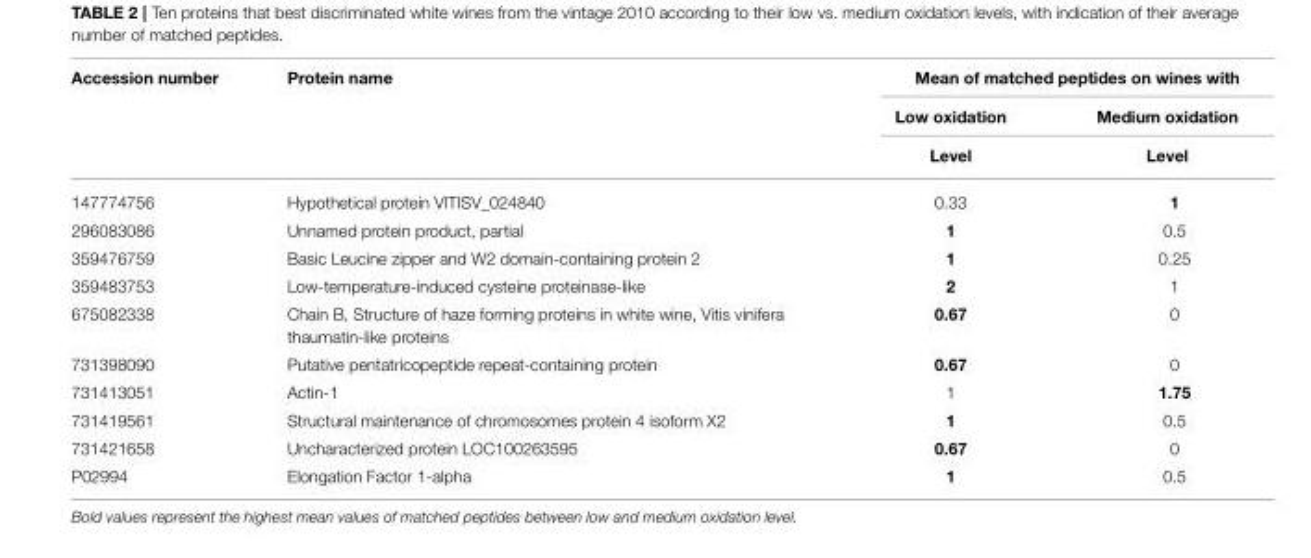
<table><thead><tr><td rowspan="3">Accession number</td><td rowspan="3">Protein name</td><td colspan="2">Mean of matched peptides on wines with</td></tr><tr><td rowspan="2">Low oxidation Level</td><td rowspan="2">Medium oxidation Level</td></tr><tr></tr></thead><tbody><tr><td>147774756</td><td>Hypothetical protein VITISV_024840</td><td>0.33</td><td>1</td></tr><tr><td>296083086</td><td>Unnamed protein product, partial</td><td>1</td><td>0.5</td></tr><tr><td>359476759</td><td>Basic Leucine zipper and W2 domain-containing protein 2</td><td>1</td><td>0.25</td></tr><tr><td>359483753</td><td>Low-temperature-induced cysteine proteinase-like</td><td>2</td><td>1</td></tr><tr><td>675082338</td><td>Chain B, Structure of haze forming proteins in white wine, Vitis vinifera thaumatin-like proteins</td><td>0.67</td><td>0</td></tr><tr><td>731398090</td><td>Putative pentatricopeptide repeat-containing protein</td><td>0.67</td><td>0</td></tr><tr><td>731413051</td><td>Actin-1</td><td>1</td><td>1.75</td></tr><tr><td>731419561</td><td>Structural maintenance of chromosomes protein 4 isoform X2</td><td>1</td><td>0.5</td></tr><tr><td>731421658</td><td>Uncharacterized protein LOC100263595</td><td>0.67</td><td>0</td></tr><tr><td>P02994</td><td>Elongation Factor 1-alpha</td><td>1</td><td>0.5</td></tr></tbody></table>